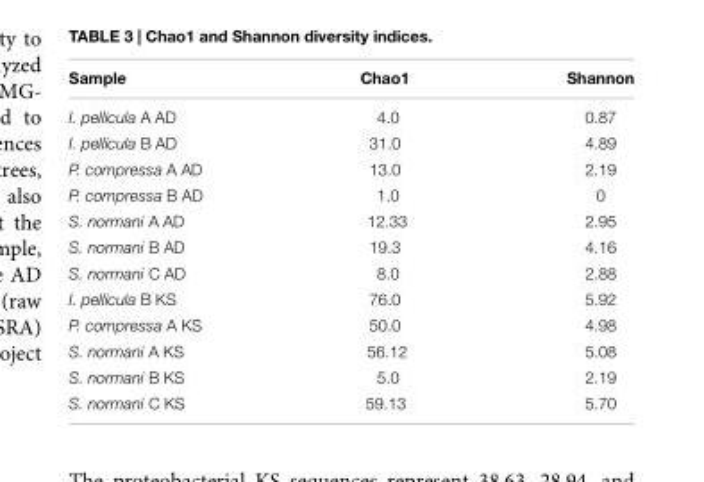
<table><thead><tr><td>Sample</td><td>Chao1</td><td>Shannon</td></tr></thead><tbody><tr><td>I. pellicula A AD</td><td>4.0</td><td>0.87</td></tr><tr><td>I. pellicula B AD</td><td>31.0</td><td>4.89</td></tr><tr><td>P. compressa A AD</td><td>13.0</td><td>2.19</td></tr><tr><td>P. compressa B AD</td><td>1.0</td><td>0</td></tr><tr><td>S. normani A AD</td><td>12.33</td><td>2.95</td></tr><tr><td>S. normani B AD</td><td>19.3</td><td>4.16</td></tr><tr><td>S. normani C AD</td><td>8.0</td><td>2.88</td></tr><tr><td>I. pellicula B KS</td><td>76.0</td><td>5.92</td></tr><tr><td>P. compressa A KS</td><td>50.0</td><td>4.98</td></tr><tr><td>S. normani A KS</td><td>56.12</td><td>5.08</td></tr><tr><td>S. normani B KS</td><td>5.0</td><td>2.19</td></tr><tr><td>S. normani C KS</td><td>59.13</td><td>5.70</td></tr></tbody></table>